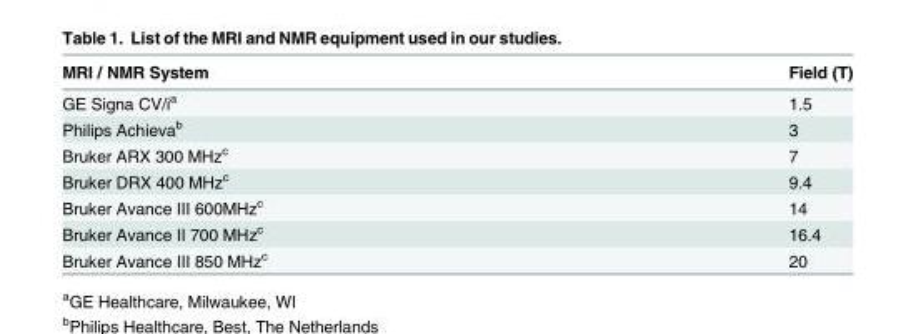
<table><thead><tr><td>MRI / NMR System</td><td>Field (T)</td></tr></thead><tbody><tr><td>GE Signa CV/i<sup>a</sup></td><td>1.5</td></tr><tr><td>Philips Achieva<sup>b</sup></td><td>3</td></tr><tr><td>Bruker ARX 300 MHz<sup>c</sup></td><td>7</td></tr><tr><td>Bruker DRX 400 MHz<sup>c</sup></td><td>9.4</td></tr><tr><td>Bruker Avance III 600MHz<sup>c</sup></td><td>14</td></tr><tr><td>Bruker Avance II 700 MHz<sup>c</sup></td><td>16.4</td></tr><tr><td>Bruker Avance III 850 MHz<sup>c</sup></td><td>20</td></tr></tbody></table>